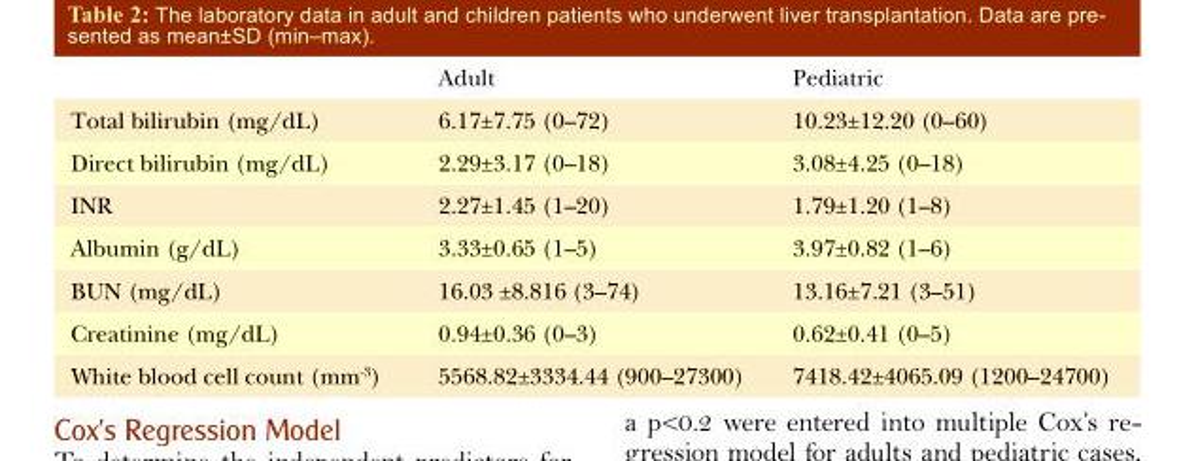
<table><thead><tr><td></td><td>Adult</td><td>Pediatric</td></tr></thead><tbody><tr><td>Total bilirubin (mg/dL)</td><td>6.17±7.75 (0–72)</td><td>10.23±12.20 (0–60)</td></tr><tr><td>Direct bilirubin (mg/dL)</td><td>2.29±3.17 (0–18)</td><td>3.08±4.25 (0–18)</td></tr><tr><td>INR</td><td>2.27±1.45 (1–20)</td><td>1.79±1.20 (1–8)</td></tr><tr><td>Albumin (g/dL)</td><td>3.33±0.65 (1–5)</td><td>3.97±0.82 (1–6)</td></tr><tr><td>BUN (mg/dL)</td><td>16.03 ±8.816 (3–74)</td><td>13.16±7.21 (3–51)</td></tr><tr><td>Creatinine (mg/dL)</td><td>0.94±0.36 (0–3)</td><td>0.62±0.41 (0–5)</td></tr><tr><td>White blood cell count (mm‑3)</td><td>5568.82±3334.44 (900–27300)</td><td>7418.42±4065.09 (1200–24700)</td></tr></tbody></table>